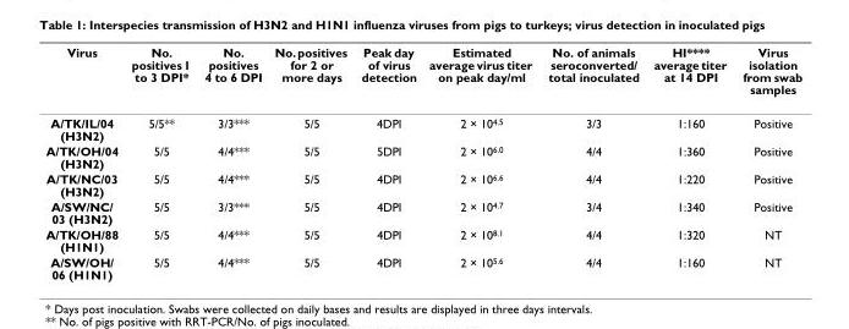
<table><thead><tr><td>Virus</td><td>No. positives 1 to 3 DPI*</td><td>No. positives 4 to 6 DPI</td><td>No. positives for 2 or more days</td><td>Peak day of virus detection</td><td>Estimated average virus titer on peak day/ml</td><td>No. of animals seroconverted/ total inoculated</td><td>HI**** average titer at 14 DPI</td><td>Virus isolation from swab samples</td></tr></thead><tbody><tr><td>A/TK/IL/04 (H3N2)</td><td>5/5**</td><td>3/3***</td><td>5/5</td><td>4DPI</td><td>2 × 10<sup>4.5</sup></td><td>3/3</td><td>1:160</td><td>Positive</td></tr><tr><td>A/TK/OH/04 (H3N2)</td><td>5/5</td><td>4/4***</td><td>5/5</td><td>5DPI</td><td>2 × 10<sup>6.0</sup></td><td>4/4</td><td>1:360</td><td>Positive</td></tr><tr><td>A/TK/NC/03 (H3N2)</td><td>5/5</td><td>4/4***</td><td>5/5</td><td>4DPI</td><td>2 × 10<sup>6.6</sup></td><td>4/4</td><td>1:220</td><td>Positive</td></tr><tr><td>A/SW/NC/ 03 (H3N2)</td><td>5/5</td><td>3/3***</td><td>5/5</td><td>4DPI</td><td>2 × 10<sup>4.7</sup></td><td>3/4</td><td>1:340</td><td>Positive</td></tr><tr><td>A/TK/OH/88 (H1N1)</td><td>5/5</td><td>4/4***</td><td>5/5</td><td>4DPI</td><td>2 × 10<sup>8.1</sup></td><td>4/4</td><td>1:320</td><td>NT</td></tr><tr><td>A/SW/OH/ 06 (H1N1)</td><td>5/5</td><td>4/4***</td><td>5/5</td><td>4DPI</td><td>2 × 10<sup>5.6</sup></td><td>4/4</td><td>1:160</td><td>NT</td></tr></tbody></table>